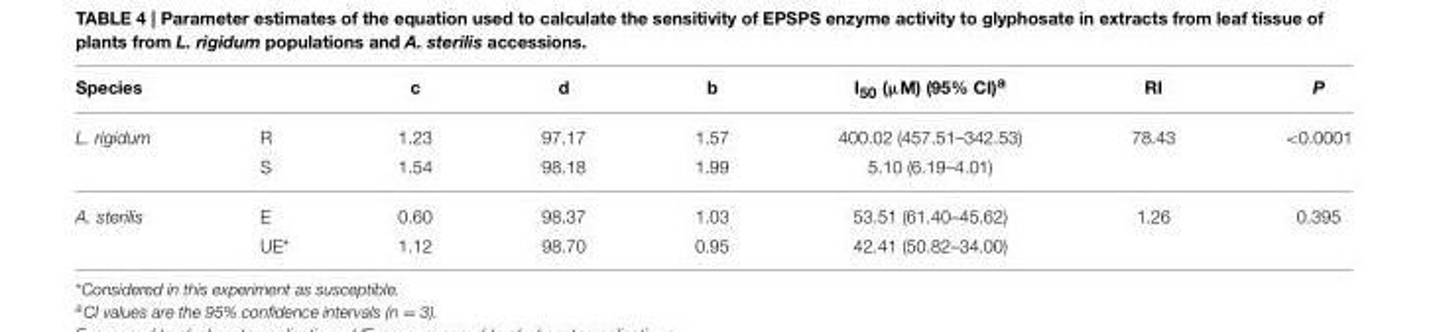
<table><thead><tr><td colspan="2">Species</td><td rowspan="2">c 1.23</td><td rowspan="2">d 97.17</td><td rowspan="2">b 1.57</td><td rowspan="2">I<sub>50</sub> (µM) (95% CI)<sup>a</sup> 400.02 (457.51–342.53)</td><td rowspan="2">RI 78.43</td><td rowspan="2">P &lt;0.0001</td></tr><tr><td>L. rigidum</td><td>R</td></tr></thead><tbody><tr><td></td><td>S</td><td>1.54</td><td>98.18</td><td>1.99</td><td>5.10 (6.19–4.01)</td><td></td><td></td></tr><tr><td rowspan="2">A. sterilis</td><td>E</td><td>0.60</td><td>98.37</td><td>1.03</td><td>53.51 (61.40–45.62)</td><td>1.26</td><td>0.395</td></tr><tr><td>UE*</td><td>1.12</td><td>98.70</td><td>0.95</td><td>42.41 (50.82–34.00)</td><td></td><td></td></tr></tbody></table>